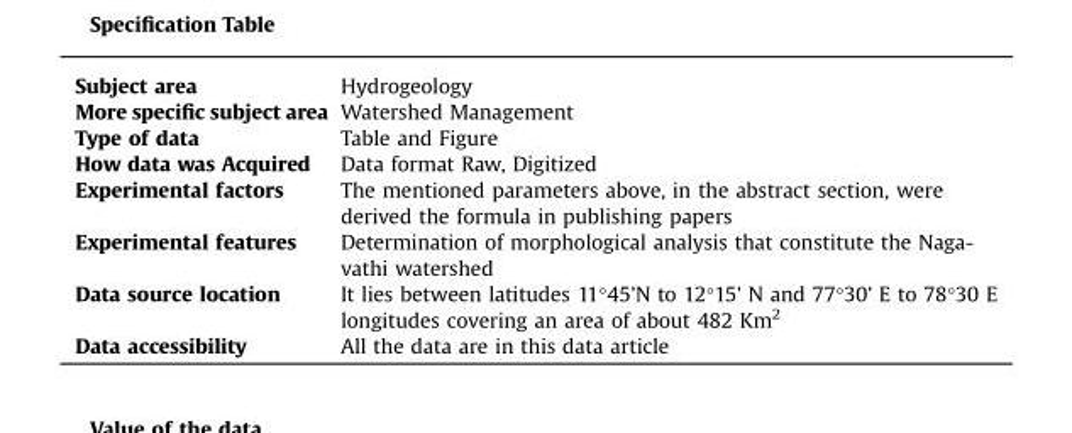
<table><thead><tr><td>Subject area</td><td>Hydrogeology</td></tr></thead><tbody><tr><td>More specific subject area</td><td>Watershed Management</td></tr><tr><td>Type of data</td><td>Table and Figure</td></tr><tr><td>How data was Acquired</td><td>Data format Raw, Digitized</td></tr><tr><td>Experimental factors</td><td>The mentioned parameters above, in the abstract section, were derived the formula in publishing papers</td></tr><tr><td>Experimental features</td><td>Determination of morphological analysis that constitute the Naga- vathi watershed</td></tr><tr><td>Data source location</td><td>It lies between latitudes 11°45’N to 12°15’ N and 77°30’ E to 78°30 E longitudes covering an area of about 482 Km<sup>2</sup></td></tr><tr><td>Data accessibility</td><td>All the data are in this data article</td></tr></tbody></table>